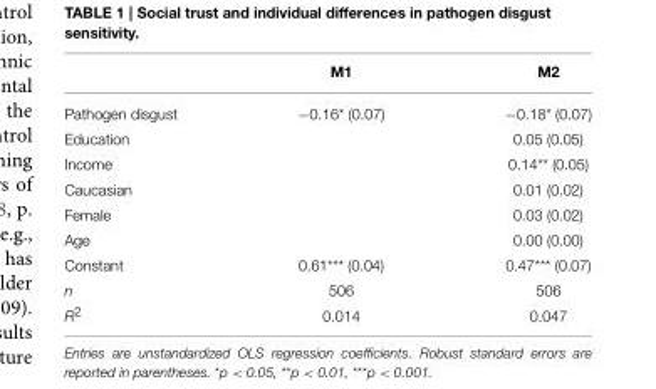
<table><thead><tr><td></td><td>M1</td><td>M2</td></tr></thead><tbody><tr><td>Pathogen disgust</td><td>−0.16* (0.07)</td><td>−0.18* (0.07)</td></tr><tr><td>Education</td><td></td><td>0.05 (0.05)</td></tr><tr><td>Income</td><td></td><td>0.14** (0.05)</td></tr><tr><td>Caucasian</td><td></td><td>0.01 (0.02)</td></tr><tr><td>Female</td><td></td><td>0.03 (0.02)</td></tr><tr><td>Age</td><td></td><td>0.00 (0.00)</td></tr><tr><td>Constant</td><td>0.61*** (0.04)</td><td>0.47*** (0.07)</td></tr><tr><td>n</td><td>506</td><td>506</td></tr><tr><td>R<sup>2</sup></td><td>0.014</td><td>0.047</td></tr></tbody></table>